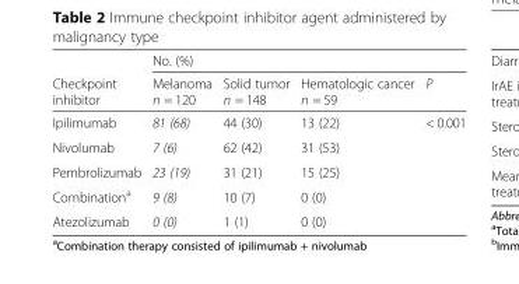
<table><thead><tr><td rowspan="2">Checkpoint inhibitor</td><td colspan="4">No. (%)</td></tr><tr><td>Melanoma n = 120</td><td>Solid tumor n = 148</td><td>Hematologic cancer n = 59</td><td>P</td></tr></thead><tbody><tr><td>Ipilimumab</td><td>81 (68)</td><td>44 (30)</td><td>13 (22)</td><td>&lt; 0.001</td></tr><tr><td>Nivolumab</td><td>7 (6)</td><td>62 (42)</td><td>31 (53)</td><td></td></tr><tr><td>Pembrolizumab</td><td>23 (19)</td><td>31 (21)</td><td>15 (25)</td><td></td></tr><tr><td>Combination<sup>a</sup></td><td>9 (8)</td><td>10 (7)</td><td>0 (0)</td><td></td></tr><tr><td>Atezolizumab</td><td>0 (0)</td><td>1 (1)</td><td>0 (0)</td><td></td></tr></tbody></table>